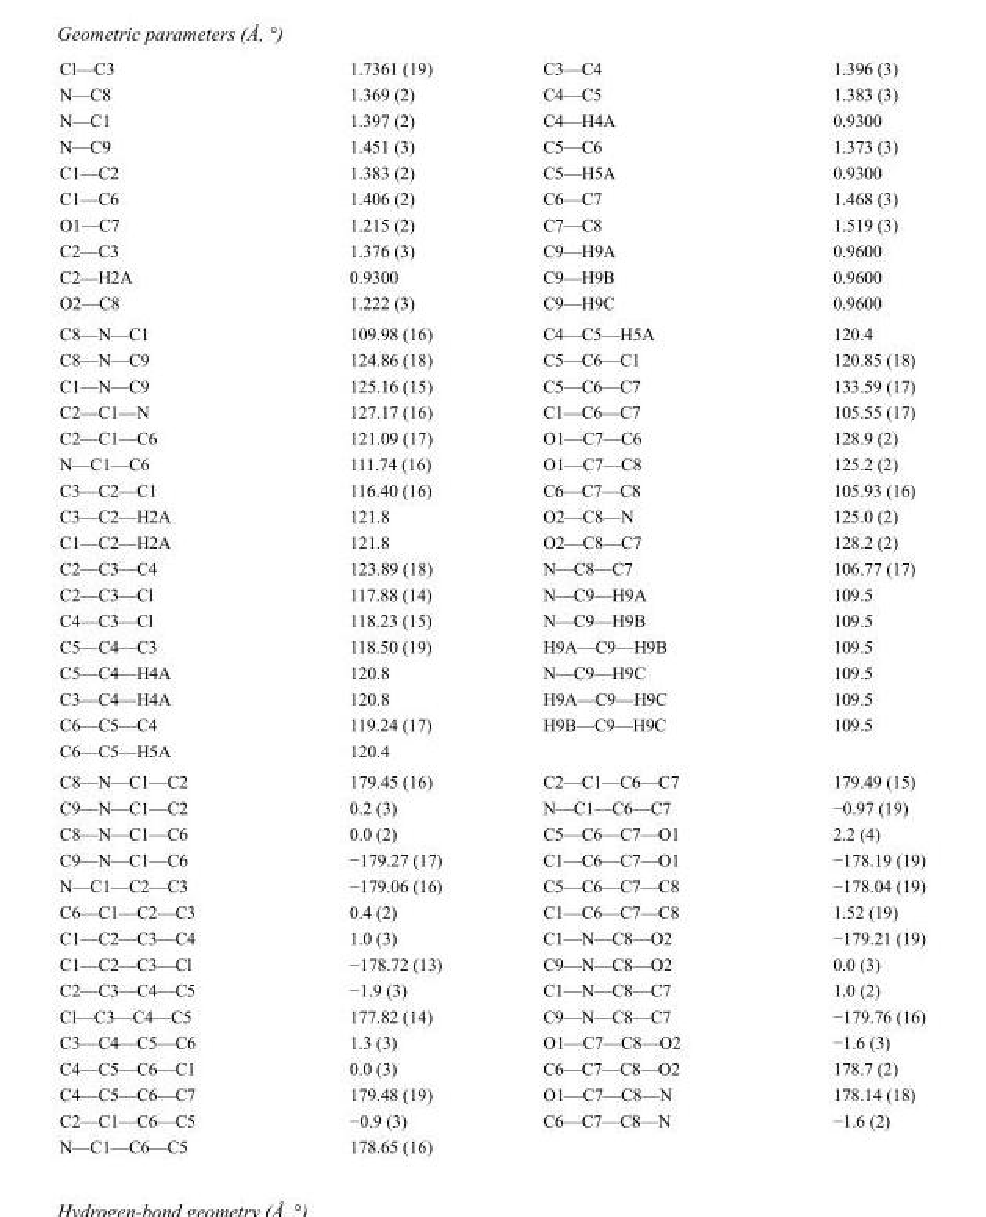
<table><tbody><tr><td>Cl—C3</td><td>1.7361 (19)</td><td>C3—C4</td><td>1.396 (3)</td></tr><tr><td>N—C8</td><td>1.369 (2)</td><td>C4—C5</td><td>1.383 (3)</td></tr><tr><td>N—C1</td><td>1.397 (2)</td><td>C4—H4A</td><td>0.9300</td></tr><tr><td>N—C9</td><td>1.451 (3)</td><td>C5—C6</td><td>1.373 (3)</td></tr><tr><td>C1—C2</td><td>1.383 (2)</td><td>C5—H5A</td><td>0.9300</td></tr><tr><td>C1—C6</td><td>1.406 (2)</td><td>C6—C7</td><td>1.468 (3)</td></tr><tr><td>O1—C7</td><td>1.215 (2)</td><td>C7—C8</td><td>1.519 (3)</td></tr><tr><td>C2—C3</td><td>1.376 (3)</td><td>C9—H9A</td><td>0.9600</td></tr><tr><td>C2—H2A</td><td>0.9300</td><td>C9—H9B</td><td>0.9600</td></tr><tr><td>O2—C8</td><td>1.222 (3)</td><td>C9—H9C</td><td>0.9600</td></tr><tr><td>C8—N—C1</td><td>109.98 (16)</td><td>C4—C5—H5A</td><td>120.4</td></tr><tr><td>C8—N—C9</td><td>124.86 (18)</td><td>C5—C6—C1</td><td>120.85 (18)</td></tr><tr><td>C1—N—C9</td><td>125.16 (15)</td><td>C5—C6—C7</td><td>133.59 (17)</td></tr><tr><td>C2—C1—N</td><td>127.17 (16)</td><td>C1—C6—C7</td><td>105.55 (17)</td></tr><tr><td>C2—C1—C6</td><td>121.09 (17)</td><td>O1—C7—C6</td><td>128.9 (2)</td></tr><tr><td>N—C1—C6</td><td>111.74 (16)</td><td>O1—C7—C8</td><td>125.2 (2)</td></tr><tr><td>C3—C2—C1</td><td>116.40 (16)</td><td>C6—C7—C8</td><td>105.93 (16)</td></tr><tr><td>C3—C2—H2A</td><td>121.8</td><td>O2—C8—N</td><td>125.0 (2)</td></tr><tr><td>C1—C2—H2A</td><td>121.8</td><td>O2—C8—C7</td><td>128.2 (2)</td></tr><tr><td>C2—C3—C4</td><td>123.89 (18)</td><td>N—C8—C7</td><td>106.77 (17)</td></tr><tr><td>C2—C3—Cl</td><td>117.88 (14)</td><td>N—C9—H9A</td><td>109.5</td></tr><tr><td>C4—C3—Cl</td><td>118.23 (15)</td><td>N—C9—H9B</td><td>109.5</td></tr><tr><td>C5—C4—C3</td><td>118.50 (19)</td><td>H9A—C9—H9B</td><td>109.5</td></tr><tr><td>C5—C4—H4A</td><td>120.8</td><td>N—C9—H9C</td><td>109.5</td></tr><tr><td>C3—C4—H4A</td><td>120.8</td><td>H9A—C9—H9C</td><td>109.5</td></tr><tr><td>C6—C5—C4</td><td>119.24 (17)</td><td>H9B—C9—H9C</td><td>109.5</td></tr><tr><td>C6—C5—H5A</td><td>120.4</td><td></td><td></td></tr><tr><td>C8—N—C1—C2</td><td>179.45 (16)</td><td>C2—C1—C6—C7</td><td>179.49 (15)</td></tr><tr><td>C9—N—C1—C2</td><td>0.2 (3)</td><td>N—C1—C6—C7</td><td>−0.97 (19)</td></tr><tr><td>C8—N—C1—C6</td><td>0.0 (2)</td><td>C5—C6—C7—O1</td><td>2.2 (4)</td></tr><tr><td>C9—N—C1—C6</td><td>−179.27 (17)</td><td>C1—C6—C7—O1</td><td>−178.19 (19)</td></tr><tr><td>N—C1—C2—C3</td><td>−179.06 (16)</td><td>C5—C6—C7—C8</td><td>−178.04 (19)</td></tr><tr><td>C6—C1—C2—C3</td><td>0.4 (2)</td><td>C1—C6—C7—C8</td><td>1.52 (19)</td></tr><tr><td>C1—C2—C3—C4</td><td>1.0 (3)</td><td>C1—N—C8—O2</td><td>−179.21 (19)</td></tr><tr><td>C1—C2—C3—Cl</td><td>−178.72 (13)</td><td>C9—N—C8—O2</td><td>0.0 (3)</td></tr><tr><td>C2—C3—C4—C5</td><td>−1.9 (3)</td><td>C1—N—C8—C7</td><td>1.0 (2)</td></tr><tr><td>Cl—C3—C4—C5</td><td>177.82 (14)</td><td>C9—N—C8—C7</td><td>−179.76 (16)</td></tr><tr><td>C3—C4—C5—C6</td><td>1.3 (3)</td><td>O1—C7—C8—O2</td><td>−1.6 (3)</td></tr><tr><td>C4—C5—C6—C1</td><td>0.0 (3)</td><td>C6—C7—C8—O2</td><td>178.7 (2)</td></tr><tr><td>C4—C5—C6—C7</td><td>179.48 (19)</td><td>O1—C7—C8—N</td><td>178.14 (18)</td></tr><tr><td>C2—C1—C6—C5</td><td>−0.9 (3)</td><td>C6—C7—C8—N</td><td>−1.6 (2)</td></tr><tr><td>N—C1—C6—C5</td><td>178.65 (16)</td><td></td><td></td></tr></tbody></table>